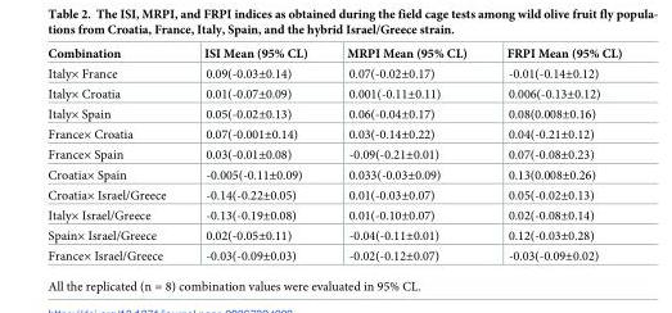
<table><thead><tr><td>Combination</td><td>ISI Mean (95% CL)</td><td>MRPI Mean (95% CL)</td><td>FRPI Mean (95% CL)</td></tr></thead><tbody><tr><td>Italy× France</td><td>0.09(-0.03±0.14)</td><td>0.07(-0.02±0.17)</td><td>-0.01(-0.14±0.12)</td></tr><tr><td>Italy× Croatia</td><td>0.01(-0.07±0.09)</td><td>0.001(-0.11±0.11)</td><td>0.006(-0.13±0.12)</td></tr><tr><td>Italy× Spain</td><td>0.05(-0.02±0.13)</td><td>0.06(-0.04±0.17)</td><td>0.08(0.008±0.16)</td></tr><tr><td>France× Croatia</td><td>0.07(-0.001±0.14)</td><td>0.03(-0.14±0.22)</td><td>0.04(-0.21±0.12)</td></tr><tr><td>France× Spain</td><td>0.03(-0.01±0.08)</td><td>-0.09(-0.21±0.01)</td><td>0.07(-0.08±0.23)</td></tr><tr><td>Croatia× Spain</td><td>-0.005(-0.11±0.09)</td><td>0.033(-0.03±0.09)</td><td>0.13(0.008±0.26)</td></tr><tr><td>Croatia× Israel/Greece</td><td>-0.14(-0.22±0.05)</td><td>0.01(-0.03±0.07)</td><td>0.05(-0.02±0.13)</td></tr><tr><td>Italy× Israel/Greece</td><td>-0.13(-0.19±0.08)</td><td>0.01(-0.10±0.07)</td><td>0.02(-0.08±0.14)</td></tr><tr><td>Spain× Israel/Greece</td><td>0.02(-0.05±0.11)</td><td>-0.04(-0.11±0.01)</td><td>0.12(-0.03±0.28)</td></tr><tr><td>France× Israel/Greece</td><td>-0.03(-0.09±0.03)</td><td>-0.02(-0.12±0.07)</td><td>-0.03(-0.09±0.02)</td></tr></tbody></table>